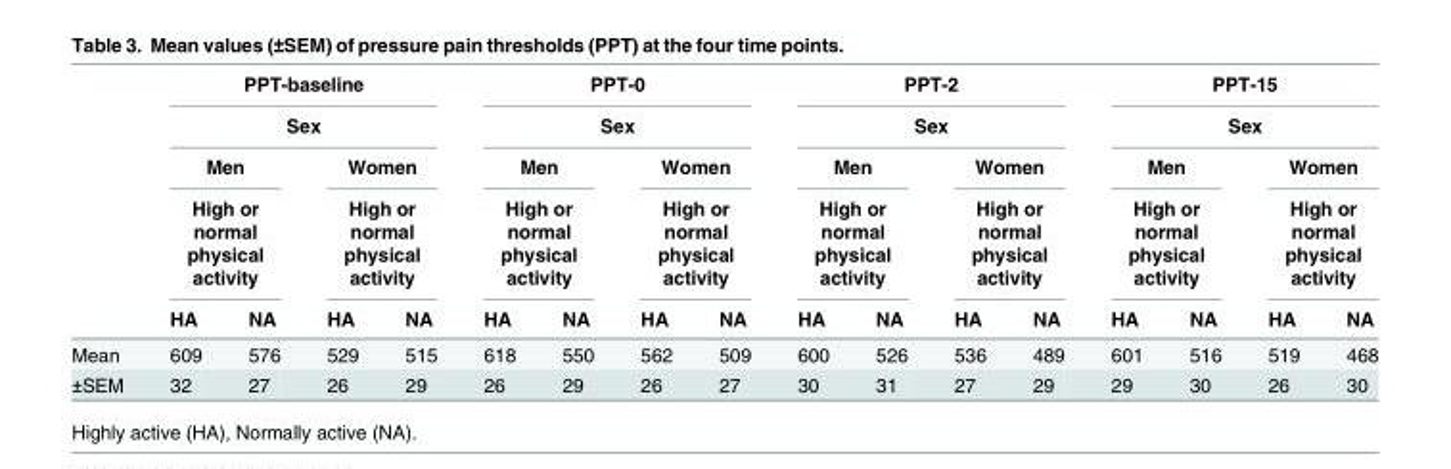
<table><thead><tr><td rowspan="5"></td><td rowspan="2" colspan="4">PPT-baseline Sex</td><td rowspan="2" colspan="4">PPT-0 Sex</td><td rowspan="2" colspan="4">PPT-2 Sex</td><td rowspan="2" colspan="4">PPT-15 Sex</td></tr><tr></tr><tr><td rowspan="2" colspan="2">Men High or normal physical activity</td><td rowspan="2" colspan="2">Women High or normal physical activity</td><td rowspan="2" colspan="2">Men High or normal physical activity</td><td rowspan="2" colspan="2">Women High or normal physical activity</td><td rowspan="2" colspan="2">Men High or normal physical activity</td><td rowspan="2" colspan="2">Women High or normal physical activity</td><td rowspan="2" colspan="2">Men High or normal physical activity</td><td rowspan="2" colspan="2">Women High or normal physical activity</td></tr><tr></tr><tr><td>HA</td><td>NA</td><td>HA</td><td>NA</td><td>HA</td><td>NA</td><td>HA</td><td>NA</td><td>HA</td><td>NA</td><td>HA</td><td>NA</td><td>HA</td><td>NA</td><td>HA</td><td>NA</td></tr></thead><tbody><tr><td>Mean</td><td>609</td><td>576</td><td>529</td><td>515</td><td>618</td><td>550</td><td>562</td><td>509</td><td>600</td><td>526</td><td>536</td><td>489</td><td>601</td><td>516</td><td>519</td><td>468</td></tr><tr><td>±SEM</td><td>32</td><td>27</td><td>26</td><td>29</td><td>26</td><td>29</td><td>26</td><td>27</td><td>30</td><td>31</td><td>27</td><td>29</td><td>29</td><td>30</td><td>26</td><td>30</td></tr></tbody></table>